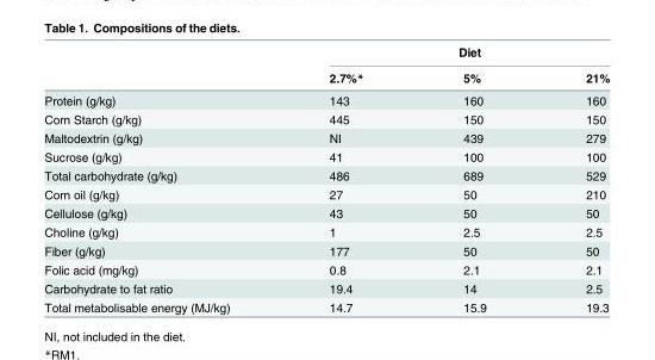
<table><thead><tr><td rowspan="2"></td><td colspan="3">Diet</td></tr><tr><td>2.7%*</td><td>5%</td><td>21%</td></tr></thead><tbody><tr><td>Protein (g/kg)</td><td>143</td><td>160</td><td>160</td></tr><tr><td>Corn Starch (g/kg)</td><td>445</td><td>150</td><td>150</td></tr><tr><td>Maltodextrin (g/kg)</td><td>NI</td><td>439</td><td>279</td></tr><tr><td>Sucrose (g/kg)</td><td>41</td><td>100</td><td>100</td></tr><tr><td>Total carbohydrate (g/kg)</td><td>486</td><td>689</td><td>529</td></tr><tr><td>Corn oil (g/kg)</td><td>27</td><td>50</td><td>210</td></tr><tr><td>Cellulose (g/kg)</td><td>43</td><td>50</td><td>50</td></tr><tr><td>Choline (g/kg)</td><td>1</td><td>2.5</td><td>2.5</td></tr><tr><td>Fiber (g/kg)</td><td>177</td><td>50</td><td>50</td></tr><tr><td>Folic acid (mg/kg)</td><td>0.8</td><td>2.1</td><td>2.1</td></tr><tr><td>Carbohydrate to fat ratio</td><td>19.4</td><td>14</td><td>2.5</td></tr><tr><td>Total metabolisable energy (MJ/kg)</td><td>14.7</td><td>15.9</td><td>19.3</td></tr></tbody></table>